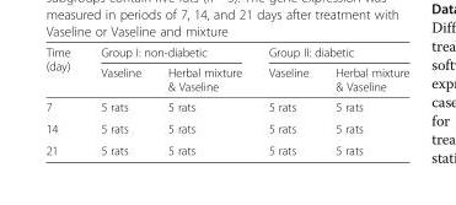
<table><thead><tr><td rowspan="2">Time (day)</td><td colspan="2">Group I: non-diabetic</td><td colspan="2">Group II: diabetic</td></tr><tr><td>Vaseline</td><td>Herbal mixture &amp; Vaseline</td><td>Vaseline</td><td>Herbal mixture &amp; Vaseline</td></tr></thead><tbody><tr><td>7</td><td>5 rats</td><td>5 rats</td><td>5 rats</td><td>5 rats</td></tr><tr><td>14</td><td>5 rats</td><td>5 rats</td><td>5 rats</td><td>5 rats</td></tr><tr><td>21</td><td>5 rats</td><td>5 rats</td><td>5 rats</td><td>5 rats</td></tr></tbody></table>